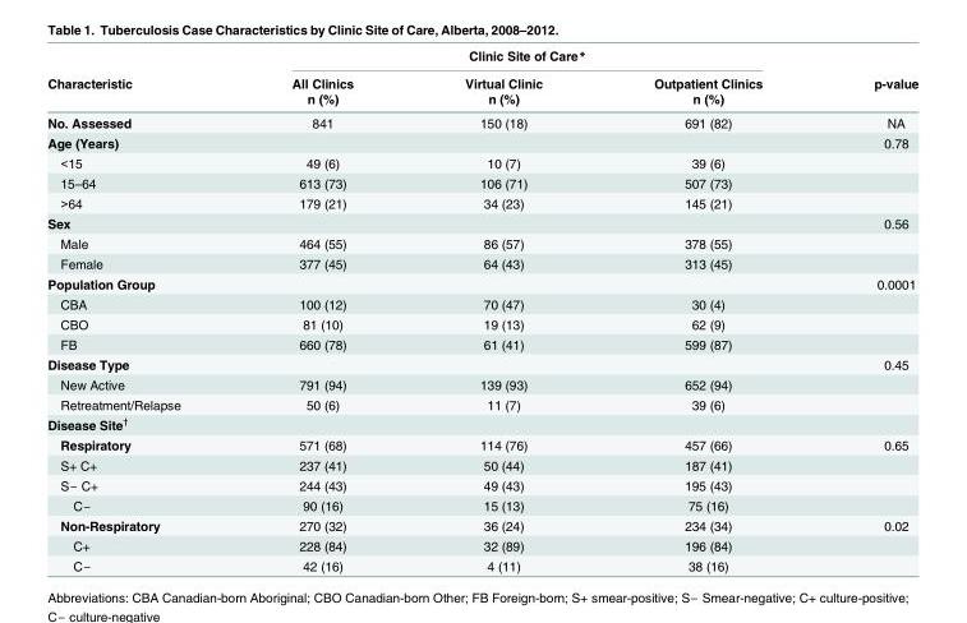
<table><thead><tr><td rowspan="3">Characteristic</td><td colspan="3">Clinic Site of Care*</td><td rowspan="3">p-value</td></tr><tr><td rowspan="2">All Clinics n (%)</td><td rowspan="2">Virtual Clinic n (%)</td><td rowspan="2">Outpatient Clinics n (%)</td></tr><tr></tr></thead><tbody><tr><td>No. Assessed</td><td>841</td><td>150 (18)</td><td>691 (82)</td><td>NA</td></tr><tr><td>Age (Years)</td><td></td><td></td><td></td><td>0.78</td></tr><tr><td>&lt;15</td><td>49 (6)</td><td>10 (7)</td><td>39 (6)</td><td></td></tr><tr><td>15–64</td><td>613 (73)</td><td>106 (71)</td><td>507 (73)</td><td></td></tr><tr><td>&gt;64</td><td>179 (21)</td><td>34 (23)</td><td>145 (21)</td><td></td></tr><tr><td>Sex</td><td></td><td></td><td></td><td>0.56</td></tr><tr><td>Male</td><td>464 (55)</td><td>86 (57)</td><td>378 (55)</td><td></td></tr><tr><td>Female</td><td>377 (45)</td><td>64 (43)</td><td>313 (45)</td><td></td></tr><tr><td>Population Group</td><td></td><td></td><td></td><td>0.0001</td></tr><tr><td>CBA</td><td>100 (12)</td><td>70 (47)</td><td>30 (4)</td><td></td></tr><tr><td>CBO</td><td>81 (10)</td><td>19 (13)</td><td>62 (9)</td><td></td></tr><tr><td>FB</td><td>660 (78)</td><td>61 (41)</td><td>599 (87)</td><td></td></tr><tr><td>Disease Type</td><td></td><td></td><td></td><td>0.45</td></tr><tr><td>New Active</td><td>791 (94)</td><td>139 (93)</td><td>652 (94)</td><td></td></tr><tr><td>Retreatment/Relapse</td><td>50 (6)</td><td>11 (7)</td><td>39 (6)</td><td></td></tr><tr><td colspan="5">Disease Site<sup>†</sup></td></tr><tr><td>Respiratory</td><td>571 (68)</td><td>114 (76)</td><td>457 (66)</td><td>0.65</td></tr><tr><td>S+ C+</td><td>237 (41)</td><td>50 (44)</td><td>187 (41)</td><td></td></tr><tr><td>S‒ C+</td><td>244 (43)</td><td>49 (43)</td><td>195 (43)</td><td></td></tr><tr><td>C‒</td><td>90 (16)</td><td>15 (13)</td><td>75 (16)</td><td></td></tr><tr><td>Non-Respiratory</td><td>270 (32)</td><td>36 (24)</td><td>234 (34)</td><td>0.02</td></tr><tr><td>C+</td><td>228 (84)</td><td>32 (89)</td><td>196 (84)</td><td></td></tr><tr><td>C‒</td><td>42 (16)</td><td>4 (11)</td><td>38 (16)</td><td></td></tr></tbody></table>